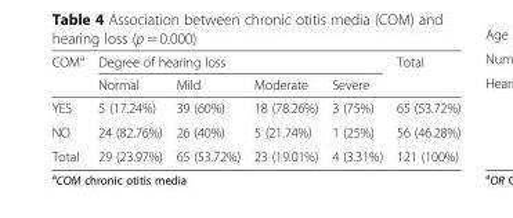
<table><thead><tr><td rowspan="2">COM<sup>a</sup></td><td colspan="4">Degree of hearing loss</td><td rowspan="2">Total</td></tr><tr><td>Normal</td><td>Mild</td><td>Moderate</td><td>Severe</td></tr></thead><tbody><tr><td>YES</td><td>5 (17.24%)</td><td>39 (60%)</td><td>18 (78.26%)</td><td>3 (75%)</td><td>65 (53.72%)</td></tr><tr><td>NO</td><td>24 (82.76%)</td><td>26 (40%)</td><td>5 (21.74%)</td><td>1 (25%)</td><td>56 (46.28%)</td></tr><tr><td>Total</td><td>29 (23.97%)</td><td>65 (53.72%)</td><td>23 (19.01%)</td><td>4 (3.31%)</td><td>121 (100%)</td></tr></tbody></table>